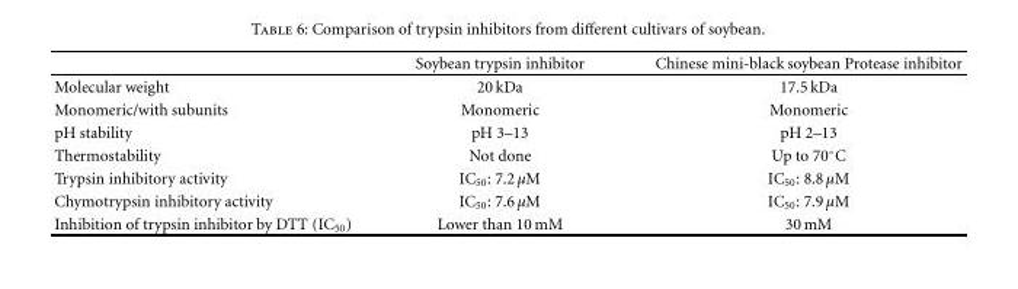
<table><thead><tr><td></td><td>Soybean trypsin inhibitor</td><td>Chinese mini-black soybean Protease inhibitor</td></tr></thead><tbody><tr><td>Molecular weight</td><td>20 kDa</td><td>17.5 kDa</td></tr><tr><td>Monomeric/with subunits</td><td>Monomeric</td><td>Monomeric</td></tr><tr><td>pH stability</td><td>pH 3–13</td><td>pH 2–13</td></tr><tr><td>Thermostability</td><td>Not done</td><td>Up to 70◦C</td></tr><tr><td>Trypsin inhibitory activity</td><td>IC<sub>50</sub>: 7.2 μM</td><td>IC<sub>50</sub>: 8.8 μM</td></tr><tr><td>Chymotrypsin inhibitory activity</td><td>IC<sub>50</sub>: 7.6 μM</td><td>IC<sub>50</sub>: 7.9 μM</td></tr><tr><td>Inhibition of trypsin inhibitor by DTT (IC<sub>50</sub>)</td><td>Lower than 10 mM</td><td>30 mM</td></tr></tbody></table>